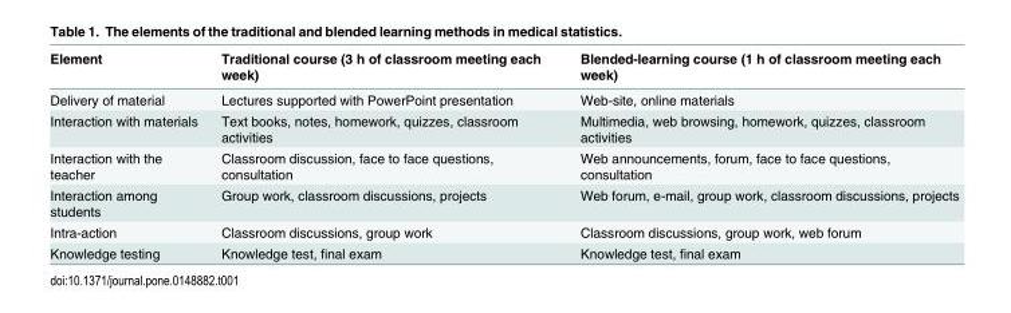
<table><thead><tr><td>Element</td><td>Traditional course (3 h of classroom meeting each week)</td><td>Blended-learning course (1 h of classroom meeting each week)</td></tr></thead><tbody><tr><td>Delivery of material</td><td>Lectures supported with PowerPoint presentation</td><td>Web-site, online materials</td></tr><tr><td>Interaction with materials</td><td>Text books, notes, homework, quizzes, classroom activities</td><td>Multimedia, web browsing, homework, quizzes, classroom activities</td></tr><tr><td>Interaction with the teacher</td><td>Classroom discussion, face to face questions, consultation</td><td>Web announcements, forum, face to face questions, consultation</td></tr><tr><td>Interaction among students</td><td>Group work, classroom discussions, projects</td><td>Web forum, e-mail, group work, classroom discussions, projects</td></tr><tr><td>Intra-action</td><td>Classroom discussions, group work</td><td>Classroom discussions, group work, web forum</td></tr><tr><td>Knowledge testing</td><td>Knowledge test, final exam</td><td>Knowledge test, final exam</td></tr></tbody></table>